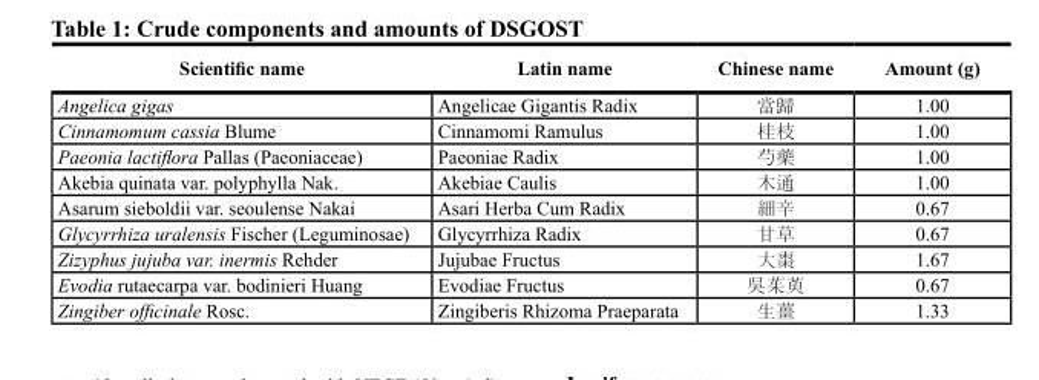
<table><thead><tr><td>Scientific name</td><td>Latin name</td><td>Chinese name</td><td>Amount (g)</td></tr></thead><tbody><tr><td>Angelica gigas</td><td>Angelicae Gigantis Radix</td><td>當歸</td><td>1.00</td></tr><tr><td>Cinnamomum cassia Blume</td><td>Cinnamomi Ramulus</td><td>桂枝</td><td>1.00</td></tr><tr><td>Paeonia lactiflora Pallas (Paeoniaceae)</td><td>Paeoniae Radix</td><td>芍藥</td><td>1.00</td></tr><tr><td>Akebia quinata var. polyphylla Nak.</td><td>Akebiae Caulis</td><td>木通</td><td>1.00</td></tr><tr><td>Asarum sieboldii var. seoulense Nakai</td><td>Asari Herba Cum Radix</td><td>細辛</td><td>0.67</td></tr><tr><td>Glycyrrhiza uralensis Fischer (Leguminosae)</td><td>Glycyrrhiza Radix</td><td>甘草</td><td>0.67</td></tr><tr><td>Zizyphus jujuba var. inermis Rehder</td><td>Jujubae Fructus</td><td>大棗</td><td>1.67</td></tr><tr><td>Evodia rutaecarpa var. bodinieri Huang</td><td>Evodiae Fructus</td><td>吳茱萸</td><td>0.67</td></tr><tr><td>Zingiber officinale Rosc.</td><td>Zingiberis Rhizoma Praeparata</td><td>生薑</td><td>1.33</td></tr></tbody></table>